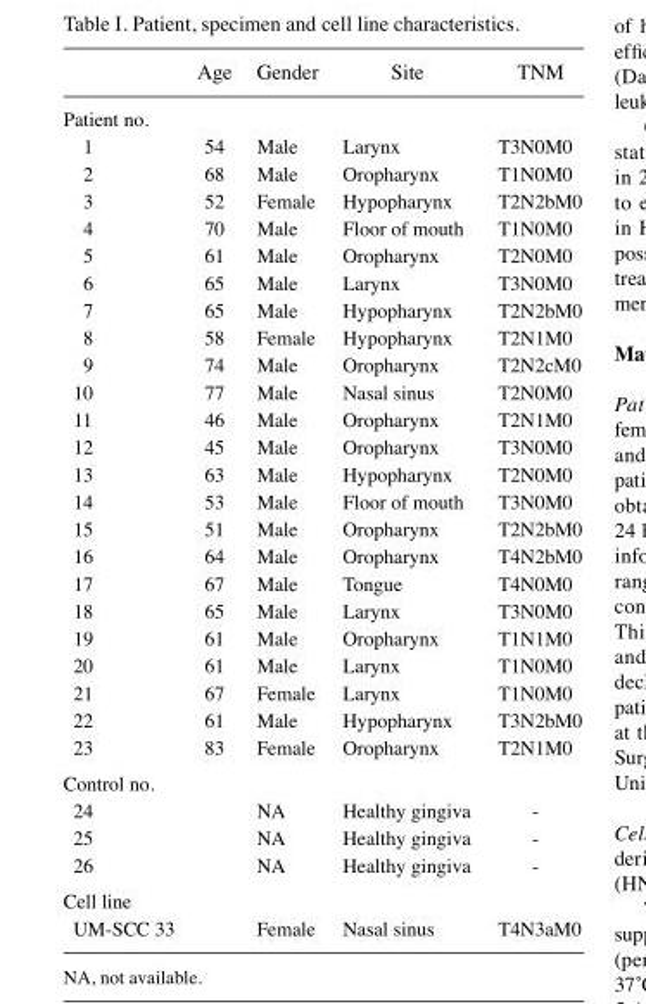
<table><thead><tr><td></td><td>Age</td><td>Gender</td><td>Site</td><td>TNM</td></tr></thead><tbody><tr><td colspan="5">Patient no.</td></tr><tr><td>1</td><td>54</td><td>Male</td><td>Larynx</td><td>T3N0M0</td></tr><tr><td>2</td><td>68</td><td>Male</td><td>Oropharynx</td><td>T1N0M0</td></tr><tr><td>3</td><td>52</td><td>Female</td><td>Hypopharynx</td><td>T2N2bM0</td></tr><tr><td>4</td><td>70</td><td>Male</td><td>Floor of mouth</td><td>T1N0M0</td></tr><tr><td>5</td><td>61</td><td>Male</td><td>Oropharynx</td><td>T2N0M0</td></tr><tr><td>6</td><td>65</td><td>Male</td><td>Larynx</td><td>T3N0M0</td></tr><tr><td>7</td><td>65</td><td>Male</td><td>Hypopharynx</td><td>T2N2bM0</td></tr><tr><td>8</td><td>58</td><td>Female</td><td>Hypopharynx</td><td>T2N1M0</td></tr><tr><td>9</td><td>74</td><td>Male</td><td>Oropharynx</td><td>T2N2cM0</td></tr><tr><td>10</td><td>77</td><td>Male</td><td>Nasal sinus</td><td>T2N0M0</td></tr><tr><td>11</td><td>46</td><td>Male</td><td>Oropharynx</td><td>T2N1M0</td></tr><tr><td>12</td><td>45</td><td>Male</td><td>Oropharynx</td><td>T3N0M0</td></tr><tr><td>13</td><td>63</td><td>Male</td><td>Hypopharynx</td><td>T2N0M0</td></tr><tr><td>14</td><td>53</td><td>Male</td><td>Floor of mouth</td><td>T3N0M0</td></tr><tr><td>15</td><td>51</td><td>Male</td><td>Oropharynx</td><td>T2N2bM0</td></tr><tr><td>16</td><td>64</td><td>Male</td><td>Oropharynx</td><td>T4N2bM0</td></tr><tr><td>17</td><td>67</td><td>Male</td><td>Tongue</td><td>T4N0M0</td></tr><tr><td>18</td><td>65</td><td>Male</td><td>Larynx</td><td>T3N0M0</td></tr><tr><td>19</td><td>61</td><td>Male</td><td>Oropharynx</td><td>T1N1M0</td></tr><tr><td>20</td><td>61</td><td>Male</td><td>Larynx</td><td>T1N0M0</td></tr><tr><td>21</td><td>67</td><td>Female</td><td>Larynx</td><td>T1N0M0</td></tr><tr><td>22</td><td>61</td><td>Male</td><td>Hypopharynx</td><td>T3N2bM0</td></tr><tr><td>23</td><td>83</td><td>Female</td><td>Oropharynx</td><td>T2N1M0</td></tr><tr><td colspan="5">Control no.</td></tr><tr><td>24</td><td></td><td>NA</td><td>Healthy gingiva</td><td>-</td></tr><tr><td>25</td><td></td><td>NA</td><td>Healthy gingiva</td><td>-</td></tr><tr><td>26</td><td></td><td>NA</td><td>Healthy gingiva</td><td>-</td></tr><tr><td colspan="5">Cell line</td></tr><tr><td>UM-SCC 33</td><td></td><td>Female</td><td>Nasal sinus</td><td>T4N3aM0</td></tr></tbody></table>